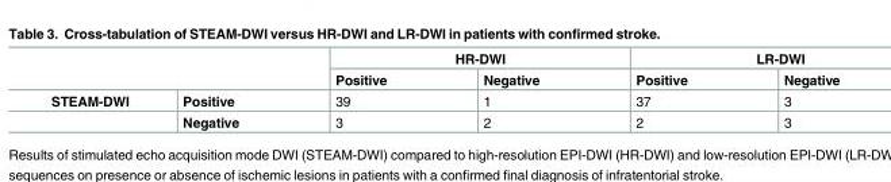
<table><thead><tr><td rowspan="2"></td><td rowspan="2"></td><td colspan="2">HR-DWI</td><td colspan="2">LR-DWI</td></tr><tr><td>Positive</td><td>Negative</td><td>Positive</td><td>Negative</td></tr></thead><tbody><tr><td rowspan="2">STEAM-DWI</td><td>Positive</td><td>39</td><td>1</td><td>37</td><td>3</td></tr><tr><td>Negative</td><td>3</td><td>2</td><td>2</td><td>3</td></tr></tbody></table>